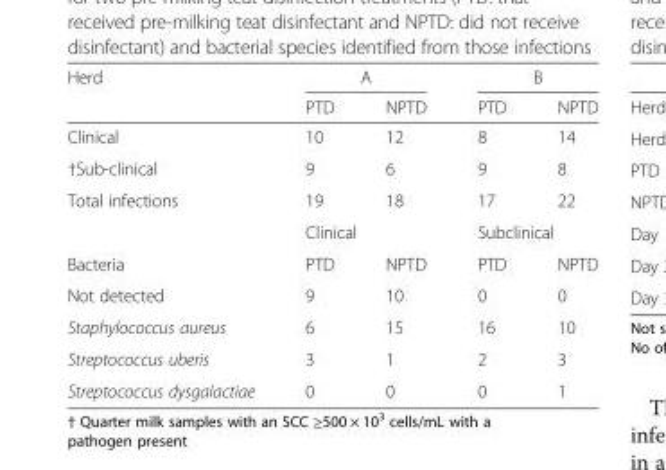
<table><thead><tr><td rowspan="2">Herd</td><td colspan="2">A</td><td colspan="2">B</td></tr><tr><td>PTD</td><td>NPTD</td><td>PTD</td><td>NPTD</td></tr></thead><tbody><tr><td>Clinical</td><td>10</td><td>12</td><td>8</td><td>14</td></tr><tr><td>†Sub-clinical</td><td>9</td><td>6</td><td>9</td><td>8</td></tr><tr><td rowspan="2">Total infections</td><td>19</td><td>18</td><td>17</td><td>22</td></tr><tr><td colspan="2">Clinical</td><td colspan="2">Subclinical</td></tr><tr><td>Bacteria</td><td>PTD</td><td>NPTD</td><td>PTD</td><td>NPTD</td></tr><tr><td>Not detected</td><td>9</td><td>10</td><td>0</td><td>0</td></tr><tr><td>Staphylococcus aureus</td><td>6</td><td>15</td><td>16</td><td>10</td></tr><tr><td>Streptococcus uberis</td><td>3</td><td>1</td><td>2</td><td>3</td></tr><tr><td>Streptococcus dysgalactiae</td><td>0</td><td>0</td><td>0</td><td>1</td></tr></tbody></table>